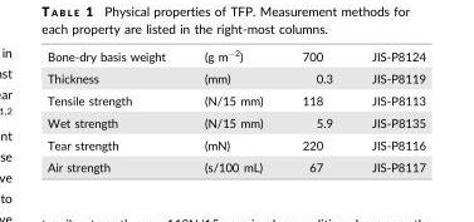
<table><tbody><tr><td>Bone-dry basis weight</td><td>(g m<sup>−2</sup>)</td><td>700</td><td>JIS-P8124</td></tr><tr><td>Thickness</td><td>(mm)</td><td>0.3</td><td>JIS-P8119</td></tr><tr><td>Tensile strength</td><td>(N/15 mm)</td><td>118</td><td>JIS-P8113</td></tr><tr><td>Wet strength</td><td>(N/15 mm)</td><td>5.9</td><td>JIS-P8135</td></tr><tr><td>Tear strength</td><td>(mN)</td><td>220</td><td>JIS-P8116</td></tr><tr><td>Air strength</td><td>(s/100 mL)</td><td>67</td><td>JIS-P8117</td></tr></tbody></table>